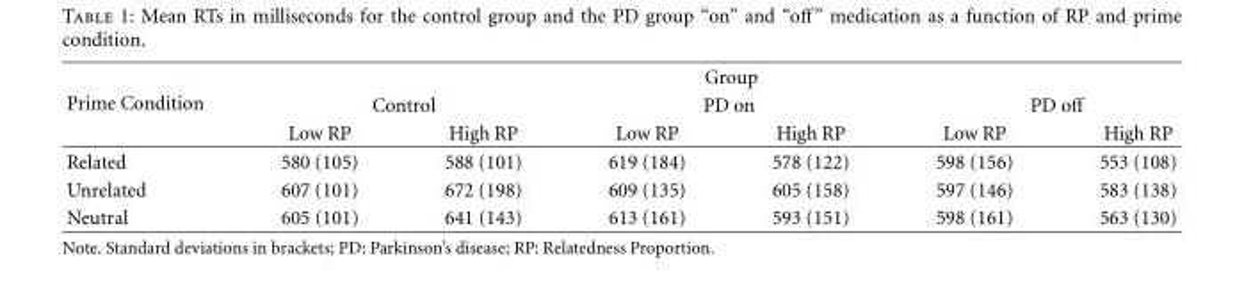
<table><thead><tr><td rowspan="3">Prime Condition</td><td colspan="6">Group</td></tr><tr><td colspan="2">Control</td><td colspan="2">PD on</td><td colspan="2">PD off</td></tr><tr><td>Low RP</td><td>High RP</td><td>Low RP</td><td>High RP</td><td>Low RP</td><td>High RP</td></tr></thead><tbody><tr><td>Related</td><td>580 (105)</td><td>588 (101)</td><td>619 (184)</td><td>578 (122)</td><td>598 (156)</td><td>553 (108)</td></tr><tr><td>Unrelated</td><td>607 (101)</td><td>672 (198)</td><td>609 (135)</td><td>605 (158)</td><td>597 (146)</td><td>583 (138)</td></tr><tr><td>Neutral</td><td>605 (101)</td><td>641 (143)</td><td>613 (161)</td><td>593 (151)</td><td>598 (161)</td><td>563 (130)</td></tr></tbody></table>